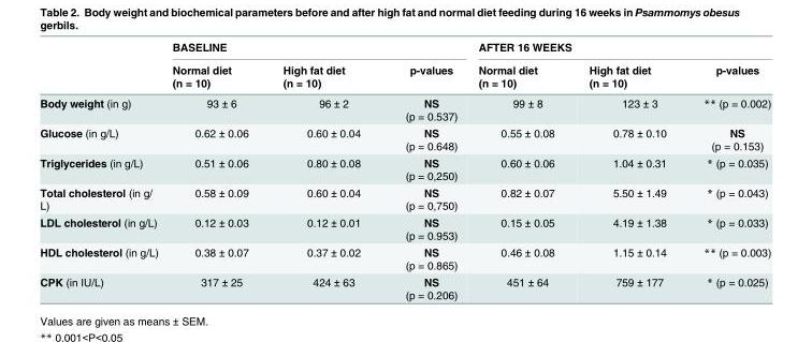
<table><thead><tr><td rowspan="2"></td><td colspan="3">BASELINE</td><td colspan="3">AFTER 16 WEEKS</td></tr><tr><td>Normal diet (n = 10)</td><td>High fat diet (n = 10)</td><td>p-values</td><td>Normal diet (n = 10)</td><td>High fat diet (n = 10)</td><td>p-values</td></tr></thead><tbody><tr><td>Body weight (in g)</td><td>93 ± 6</td><td>96 ± 2</td><td>NS (p = 0.537)</td><td>99 ± 8</td><td>123 ± 3</td><td>** (p = 0.002)</td></tr><tr><td>Glucose (in g/L)</td><td>0.62 ± 0.06</td><td>0.60 ± 0.04</td><td>NS (p = 0.648)</td><td>0.55 ± 0.08</td><td>0.78 ± 0.10</td><td>NS (p = 0.153)</td></tr><tr><td>Triglycerides (in g/L)</td><td>0.51 ± 0.06</td><td>0.80 ± 0.08</td><td>NS (p = 0,250)</td><td>0.60 ± 0.06</td><td>1.04 ± 0.31</td><td>* (p = 0.035)</td></tr><tr><td>Total cholesterol (in g/ L)</td><td>0.58 ± 0.09</td><td>0.60 ± 0.04</td><td>NS (p = 0,750)</td><td>0.82 ± 0.07</td><td>5.50 ± 1.49</td><td>* (p = 0.043)</td></tr><tr><td>LDL cholesterol (in g/L)</td><td>0.12 ± 0.03</td><td>0.12 ± 0.01</td><td>NS (p = 0.953)</td><td>0.15 ± 0.05</td><td>4.19 ± 1.38</td><td>* (p = 0.033)</td></tr><tr><td>HDL cholesterol (in g/L)</td><td>0.38 ± 0.07</td><td>0.37 ± 0.02</td><td>NS (p = 0.865)</td><td>0.46 ± 0.08</td><td>1.15 ± 0.14</td><td>** (p = 0.003)</td></tr><tr><td>CPK (in IU/L)</td><td>317 ± 25</td><td>424 ± 63</td><td>NS (p = 0.206)</td><td>451 ± 64</td><td>759 ± 177</td><td>* (p = 0.025)</td></tr></tbody></table>